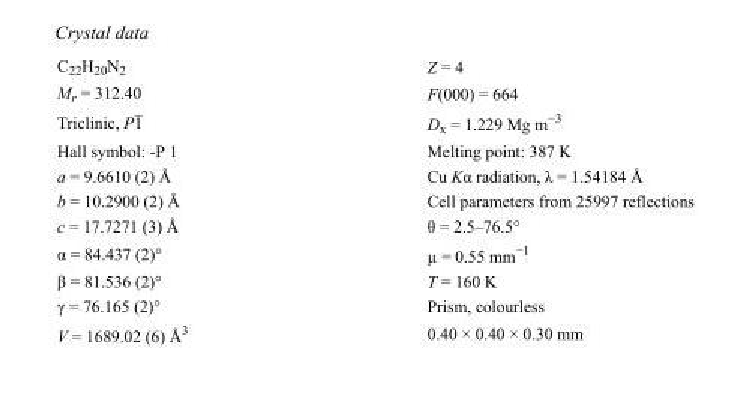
<table><tbody><tr><td>C<sub>22</sub>H<sub>20</sub>N<sub>2</sub></td><td>Z = 4</td></tr><tr><td>M<sub>r</sub> = 312.40</td><td>F(000) = 664</td></tr><tr><td>Triclinic, P1</td><td>D<sub>x</sub> = 1.229 Mg m<sup>−3</sup></td></tr><tr><td>Hall symbol: -P 1</td><td>Melting point: 387 K</td></tr><tr><td>a = 9.6610 (2) Å</td><td>Cu Kα radiation, λ = 1.54184 Å</td></tr><tr><td>b = 10.2900 (2) Å</td><td>Cell parameters from 25997 reflections</td></tr><tr><td>c = 17.7271 (3) Å</td><td>θ = 2.5–76.5°</td></tr><tr><td>α = 84.437 (2)°</td><td>µ = 0.55 mm<sup>−1</sup></td></tr><tr><td>β = 81.536 (2)°</td><td>T = 160 K</td></tr><tr><td>γ = 76.165 (2)°</td><td>Prism, colourless</td></tr><tr><td>V = 1689.02 (6) Å<sup>3</sup></td><td>0.40 × 0.40 × 0.30 mm</td></tr></tbody></table>